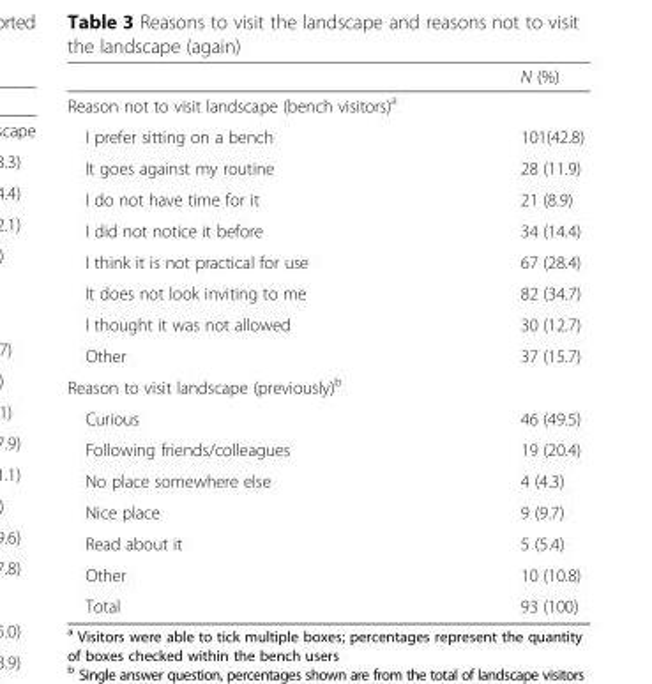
<table><thead><tr><td></td><td>N (%)</td></tr></thead><tbody><tr><td colspan="2">Reason not to visit landscape (bench visitors)<sup>a</sup></td></tr><tr><td>I prefer sitting on a bench</td><td>101(42.8)</td></tr><tr><td>It goes against my routine</td><td>28 (11.9)</td></tr><tr><td>I do not have time for it</td><td>21 (8.9)</td></tr><tr><td>I did not notice it before</td><td>34 (14.4)</td></tr><tr><td>I think it is not practical for use</td><td>67 (28.4)</td></tr><tr><td>It does not look inviting to me</td><td>82 (34.7)</td></tr><tr><td>I thought it was not allowed</td><td>30 (12.7)</td></tr><tr><td>Other</td><td>37 (15.7)</td></tr><tr><td colspan="2">Reason to visit landscape (previously)<sup>b</sup></td></tr><tr><td>Curious</td><td>46 (49.5)</td></tr><tr><td>Following friends/colleagues</td><td>19 (20.4)</td></tr><tr><td>No place somewhere else</td><td>4 (4.3)</td></tr><tr><td>Nice place</td><td>9 (9.7)</td></tr><tr><td>Read about it</td><td>5 (5.4)</td></tr><tr><td>Other</td><td>10 (10.8)</td></tr><tr><td>Total</td><td>93 (100)</td></tr></tbody></table>